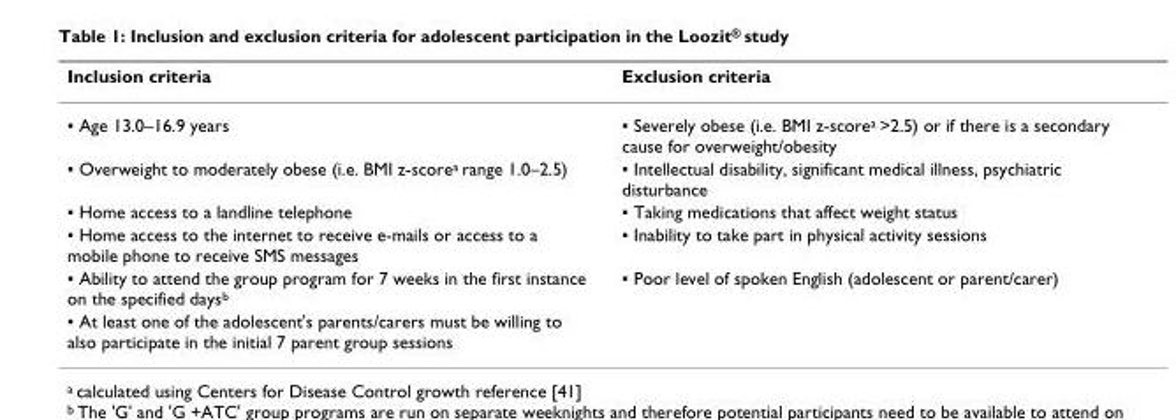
<table><thead><tr><td>Inclusion criteria</td><td>Exclusion criteria</td></tr></thead><tbody><tr><td>▪ Age 13.0–16.9 years</td><td>▪ Severely obese (i.e. BMI z-score<sup>a</sup> &gt;2.5) or if there is a secondary cause for overweight/obesity</td></tr><tr><td>▪ Overweight to moderately obese (i.e. BMI z-score<sup>a</sup> range 1.0–2.5)</td><td>▪ Intellectual disability, significant medical illness, psychiatric disturbance</td></tr><tr><td>▪ Home access to a landline telephone</td><td>▪ Taking medications that affect weight status</td></tr><tr><td>▪ Home access to the internet to receive e-mails or access to a mobile phone to receive SMS messages</td><td>▪ Inability to take part in physical activity sessions</td></tr><tr><td>▪ Ability to attend the group program for 7 weeks in the first instance on the specified days<sup>b</sup></td><td>▪ Poor level of spoken English (adolescent or parent/carer)</td></tr><tr><td>▪ At least one of the adolescent&#x27;s parents/carers must be willing to also participate in the initial 7 parent group sessions</td><td></td></tr></tbody></table>